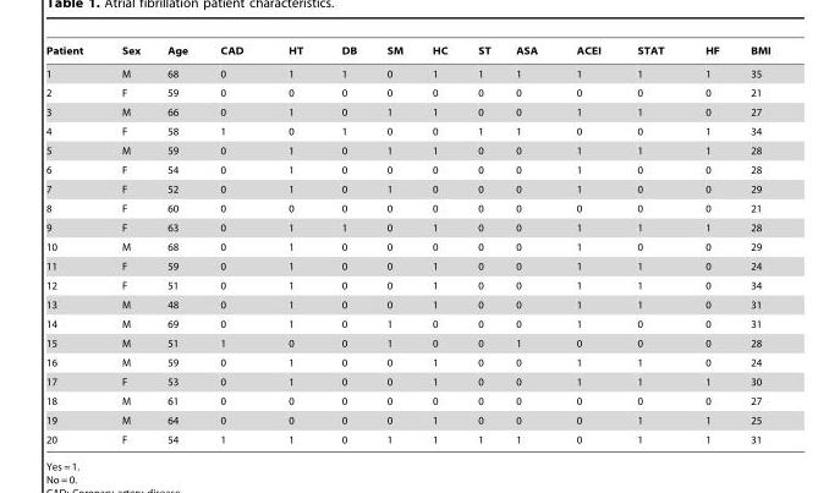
<table><thead><tr><td>Patient</td><td>Sex</td><td>Age</td><td>CAD</td><td>HT</td><td>DB</td><td>SM</td><td>HC</td><td>ST</td><td>ASA</td><td>ACEI</td><td>STAT</td><td>HF</td><td>BMI</td></tr></thead><tbody><tr><td>1</td><td>M</td><td>68</td><td>0</td><td>1</td><td>1</td><td>0</td><td>1</td><td>1</td><td>1</td><td>1</td><td>1</td><td>1</td><td>35</td></tr><tr><td>2</td><td>F</td><td>59</td><td>0</td><td>0</td><td>0</td><td>0</td><td>0</td><td>0</td><td>0</td><td>0</td><td>0</td><td>0</td><td>21</td></tr><tr><td>3</td><td>M</td><td>66</td><td>0</td><td>1</td><td>0</td><td>1</td><td>1</td><td>0</td><td>0</td><td>1</td><td>1</td><td>0</td><td>27</td></tr><tr><td>4</td><td>F</td><td>58</td><td>1</td><td>0</td><td>1</td><td>0</td><td>0</td><td>1</td><td>1</td><td>0</td><td>0</td><td>1</td><td>34</td></tr><tr><td>5</td><td>M</td><td>59</td><td>0</td><td>1</td><td>0</td><td>1</td><td>1</td><td>0</td><td>0</td><td>1</td><td>1</td><td>1</td><td>28</td></tr><tr><td>6</td><td>F</td><td>54</td><td>0</td><td>1</td><td>0</td><td>0</td><td>0</td><td>0</td><td>0</td><td>1</td><td>0</td><td>0</td><td>28</td></tr><tr><td>7</td><td>F</td><td>52</td><td>0</td><td>1</td><td>0</td><td>1</td><td>0</td><td>0</td><td>0</td><td>1</td><td>0</td><td>0</td><td>29</td></tr><tr><td>8</td><td>F</td><td>60</td><td>0</td><td>0</td><td>0</td><td>0</td><td>0</td><td>0</td><td>0</td><td>0</td><td>0</td><td>0</td><td>21</td></tr><tr><td>9</td><td>F</td><td>63</td><td>0</td><td>1</td><td>1</td><td>0</td><td>1</td><td>0</td><td>0</td><td>1</td><td>1</td><td>1</td><td>28</td></tr><tr><td>10</td><td>M</td><td>68</td><td>0</td><td>1</td><td>0</td><td>0</td><td>0</td><td>0</td><td>0</td><td>1</td><td>0</td><td>0</td><td>29</td></tr><tr><td>11</td><td>F</td><td>59</td><td>0</td><td>1</td><td>0</td><td>0</td><td>1</td><td>0</td><td>0</td><td>1</td><td>1</td><td>0</td><td>24</td></tr><tr><td>12</td><td>F</td><td>51</td><td>0</td><td>1</td><td>0</td><td>0</td><td>1</td><td>0</td><td>0</td><td>1</td><td>1</td><td>0</td><td>34</td></tr><tr><td>13</td><td>M</td><td>48</td><td>0</td><td>1</td><td>0</td><td>0</td><td>1</td><td>0</td><td>0</td><td>1</td><td>1</td><td>0</td><td>31</td></tr><tr><td>14</td><td>M</td><td>69</td><td>0</td><td>1</td><td>0</td><td>1</td><td>0</td><td>0</td><td>0</td><td>1</td><td>0</td><td>0</td><td>31</td></tr><tr><td>15</td><td>M</td><td>51</td><td>1</td><td>0</td><td>0</td><td>1</td><td>0</td><td>0</td><td>1</td><td>0</td><td>0</td><td>0</td><td>28</td></tr><tr><td>16</td><td>M</td><td>59</td><td>0</td><td>1</td><td>0</td><td>0</td><td>1</td><td>0</td><td>0</td><td>1</td><td>1</td><td>0</td><td>24</td></tr><tr><td>17</td><td>F</td><td>53</td><td>0</td><td>1</td><td>0</td><td>0</td><td>1</td><td>0</td><td>0</td><td>1</td><td>1</td><td>1</td><td>30</td></tr><tr><td>18</td><td>M</td><td>61</td><td>0</td><td>0</td><td>0</td><td>0</td><td>0</td><td>0</td><td>0</td><td>0</td><td>0</td><td>0</td><td>27</td></tr><tr><td>19</td><td>M</td><td>64</td><td>0</td><td>0</td><td>0</td><td>0</td><td>1</td><td>0</td><td>0</td><td>0</td><td>1</td><td>1</td><td>25</td></tr><tr><td>20</td><td>F</td><td>54</td><td>1</td><td>1</td><td>0</td><td>1</td><td>1</td><td>1</td><td>1</td><td>0</td><td>1</td><td>1</td><td>31</td></tr></tbody></table>